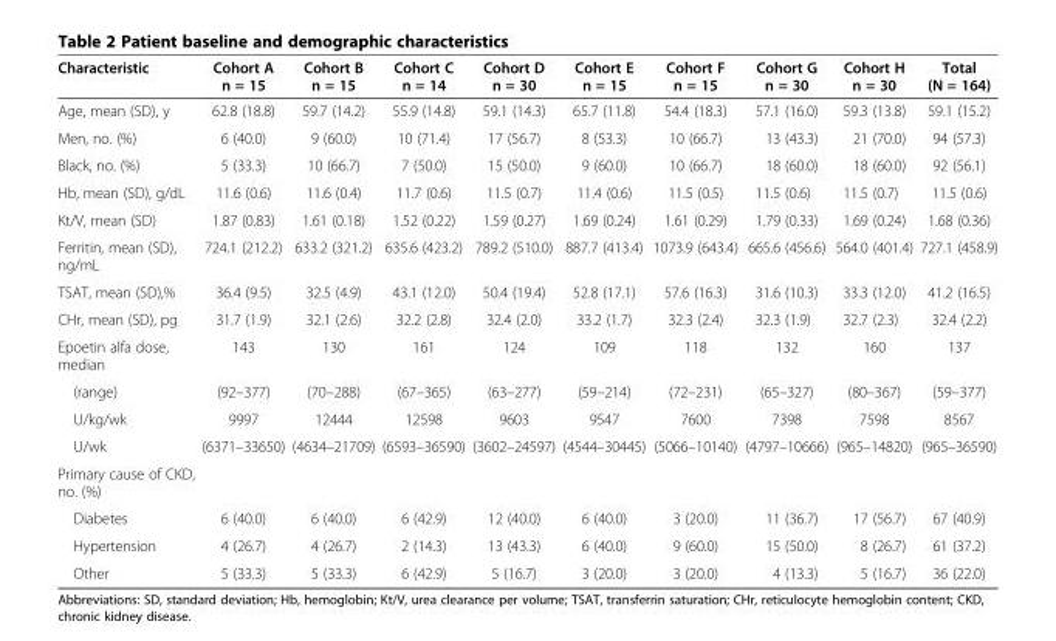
<table><thead><tr><td>Characteristic</td><td>Cohort A n = 15</td><td>Cohort B n = 15</td><td>Cohort C n = 14</td><td>Cohort D n = 30</td><td>Cohort E n = 15</td><td>Cohort F n = 15</td><td>Cohort G n = 30</td><td>Cohort H n = 30</td><td>Total (N = 164)</td></tr></thead><tbody><tr><td>Age, mean (SD), y</td><td>62.8 (18.8)</td><td>59.7 (14.2)</td><td>55.9 (14.8)</td><td>59.1 (14.3)</td><td>65.7 (11.8)</td><td>54.4 (18.3)</td><td>57.1 (16.0)</td><td>59.3 (13.8)</td><td>59.1 (15.2)</td></tr><tr><td>Men, no. (%)</td><td>6 (40.0)</td><td>9 (60.0)</td><td>10 (71.4)</td><td>17 (56.7)</td><td>8 (53.3)</td><td>10 (66.7)</td><td>13 (43.3)</td><td>21 (70.0)</td><td>94 (57.3)</td></tr><tr><td>Black, no. (%)</td><td>5 (33.3)</td><td>10 (66.7)</td><td>7 (50.0)</td><td>15 (50.0)</td><td>9 (60.0)</td><td>10 (66.7)</td><td>18 (60.0)</td><td>18 (60.0)</td><td>92 (56.1)</td></tr><tr><td>Hb, mean (SD), g/dL</td><td>11.6 (0.6)</td><td>11.6 (0.4)</td><td>11.7 (0.6)</td><td>11.5 (0.7)</td><td>11.4 (0.6)</td><td>11.5 (0.5)</td><td>11.5 (0.6)</td><td>11.5 (0.7)</td><td>11.5 (0.6)</td></tr><tr><td>Kt/V, mean (SD)</td><td>1.87 (0.83)</td><td>1.61 (0.18)</td><td>1.52 (0.22)</td><td>1.59 (0.27)</td><td>1.69 (0.24)</td><td>1.61 (0.29)</td><td>1.79 (0.33)</td><td>1.69 (0.24)</td><td>1.68 (0.36)</td></tr><tr><td>Ferritin, mean (SD), ng/mL</td><td>724.1 (212.2)</td><td>633.2 (321.2)</td><td>635.6 (423.2)</td><td>789.2 (510.0)</td><td>887.7 (413.4)</td><td>1073.9 (643.4)</td><td>665.6 (456.6)</td><td>564.0 (401.4)</td><td>727.1 (458.9)</td></tr><tr><td>TSAT, mean (SD),%</td><td>36.4 (9.5)</td><td>32.5 (4.9)</td><td>43.1 (12.0)</td><td>50.4 (19.4)</td><td>52.8 (17.1)</td><td>57.6 (16.3)</td><td>31.6 (10.3)</td><td>33.3 (12.0)</td><td>41.2 (16.5)</td></tr><tr><td>CHr, mean (SD), pg</td><td>31.7 (1.9)</td><td>32.1 (2.6)</td><td>32.2 (2.8)</td><td>32.4 (2.0)</td><td>33.2 (1.7)</td><td>32.3 (2.4)</td><td>32.3 (1.9)</td><td>32.7 (2.3)</td><td>32.4 (2.2)</td></tr><tr><td>Epoetin alfa dose, median</td><td>143</td><td>130</td><td>161</td><td>124</td><td>109</td><td>118</td><td>132</td><td>160</td><td>137</td></tr><tr><td>(range)</td><td>(92–377)</td><td>(70–288)</td><td>(67–365)</td><td>(63–277)</td><td>(59–214)</td><td>(72–231)</td><td>(65–327)</td><td>(80–367)</td><td>(59–377)</td></tr><tr><td>U/kg/wk</td><td>9997</td><td>12444</td><td>12598</td><td>9603</td><td>9547</td><td>7600</td><td>7398</td><td>7598</td><td>8567</td></tr><tr><td>U/wk</td><td>(6371–33650)</td><td>(4634–21709)</td><td>(6593–36590)</td><td>(3602–24597)</td><td>(4544–30445)</td><td>(5066–10140)</td><td>(4797–10666)</td><td>(965–14820)</td><td>(965–36590)</td></tr><tr><td colspan="10">Primary cause of CKD, no. (%)</td></tr><tr><td>Diabetes</td><td>6 (40.0)</td><td>6 (40.0)</td><td>6 (42.9)</td><td>12 (40.0)</td><td>6 (40.0)</td><td>3 (20.0)</td><td>11 (36.7)</td><td>17 (56.7)</td><td>67 (40.9)</td></tr><tr><td>Hypertension</td><td>4 (26.7)</td><td>4 (26.7)</td><td>2 (14.3)</td><td>13 (43.3)</td><td>6 (40.0)</td><td>9 (60.0)</td><td>15 (50.0)</td><td>8 (26.7)</td><td>61 (37.2)</td></tr><tr><td>Other</td><td>5 (33.3)</td><td>5 (33.3)</td><td>6 (42.9)</td><td>5 (16.7)</td><td>3 (20.0)</td><td>3 (20.0)</td><td>4 (13.3)</td><td>5 (16.7)</td><td>36 (22.0)</td></tr></tbody></table>